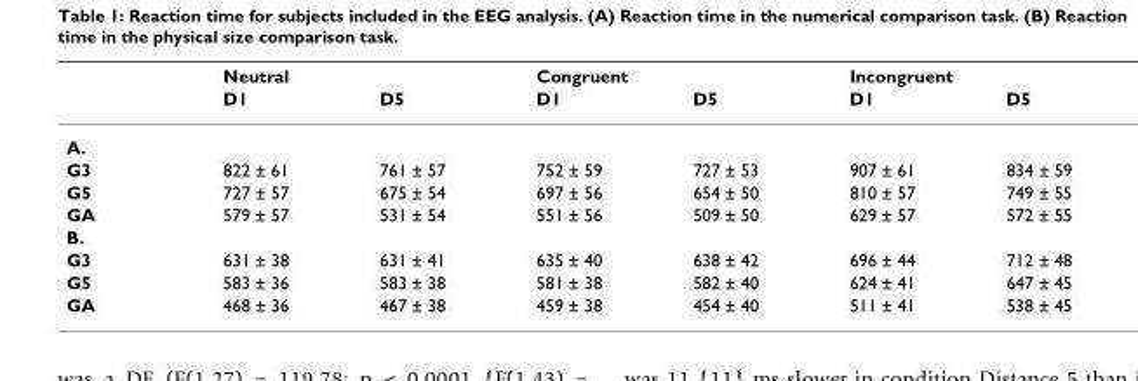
<table><thead><tr><td rowspan="2"></td><td rowspan="2">Neutral D1</td><td rowspan="2">D5</td><td rowspan="2">Congruent D1</td><td rowspan="2">D5</td><td rowspan="2">Incongruent D1</td><td rowspan="2">D5</td></tr><tr></tr></thead><tbody><tr><td colspan="7">A.</td></tr><tr><td>G3</td><td>822 ± 61</td><td>761 ± 57</td><td>752 ± 59</td><td>727 ± 53</td><td>907 ± 61</td><td>834 ± 59</td></tr><tr><td>G5</td><td>727 ± 57</td><td>675 ± 54</td><td>697 ± 56</td><td>654 ± 50</td><td>810 ± 57</td><td>749 ± 55</td></tr><tr><td>GA</td><td>579 ± 57</td><td>531 ± 54</td><td>551 ± 56</td><td>509 ± 50</td><td>629 ± 57</td><td>572 ± 55</td></tr><tr><td colspan="7">B.</td></tr><tr><td>G3</td><td>631 ± 38</td><td>631 ± 41</td><td>635 ± 40</td><td>638 ± 42</td><td>696 ± 44</td><td>712 ± 48</td></tr><tr><td>G5</td><td>583 ± 36</td><td>583 ± 38</td><td>581 ± 38</td><td>582 ± 40</td><td>624 ± 41</td><td>647 ± 45</td></tr><tr><td>GA</td><td>468 ± 36</td><td>467 ± 38</td><td>459 ± 38</td><td>454 ± 40</td><td>511 ± 41</td><td>538 ± 45</td></tr></tbody></table>